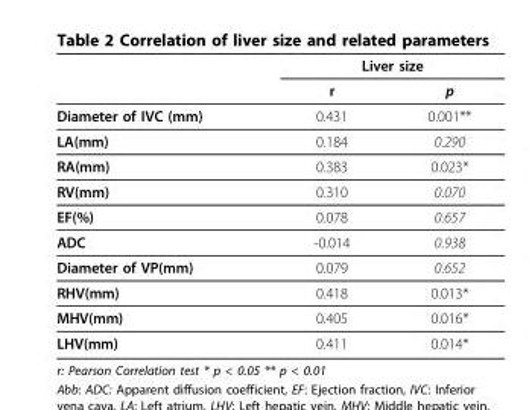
<table><thead><tr><td rowspan="2"></td><td colspan="2">Liver size</td></tr><tr><td>r</td><td>p</td></tr></thead><tbody><tr><td>Diameter of IVC (mm)</td><td>0.431</td><td>0.001**</td></tr><tr><td>LA(mm)</td><td>0.184</td><td>0.290</td></tr><tr><td>RA(mm)</td><td>0.383</td><td>0.023*</td></tr><tr><td>RV(mm)</td><td>0.310</td><td>0.070</td></tr><tr><td>EF(%)</td><td>0.078</td><td>0.657</td></tr><tr><td>ADC</td><td>-0.014</td><td>0.938</td></tr><tr><td>Diameter of VP(mm)</td><td>0.079</td><td>0.652</td></tr><tr><td>RHV(mm)</td><td>0.418</td><td>0.013*</td></tr><tr><td>MHV(mm)</td><td>0.405</td><td>0.016*</td></tr><tr><td>LHV(mm)</td><td>0.411</td><td>0.014*</td></tr></tbody></table>